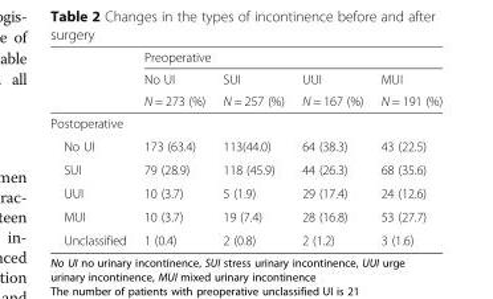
<table><thead><tr><td rowspan="3"></td><td colspan="4">Preoperative</td></tr><tr><td rowspan="2">No UI N = 273 (%)</td><td rowspan="2">SUI N = 257 (%)</td><td rowspan="2">UUI N = 167 (%)</td><td rowspan="2">MUI N = 191 (%)</td></tr><tr></tr></thead><tbody><tr><td colspan="5">Postoperative</td></tr><tr><td>No UI</td><td>173 (63.4)</td><td>113(44.0)</td><td>64 (38.3)</td><td>43 (22.5)</td></tr><tr><td>SUI</td><td>79 (28.9)</td><td>118 (45.9)</td><td>44 (26.3)</td><td>68 (35.6)</td></tr><tr><td>UUI</td><td>10 (3.7)</td><td>5 (1.9)</td><td>29 (17.4)</td><td>24 (12.6)</td></tr><tr><td>MUI</td><td>10 (3.7)</td><td>19 (7.4)</td><td>28 (16.8)</td><td>53 (27.7)</td></tr><tr><td>Unclassified</td><td>1 (0.4)</td><td>2 (0.8)</td><td>2 (1.2)</td><td>3 (1.6)</td></tr></tbody></table>